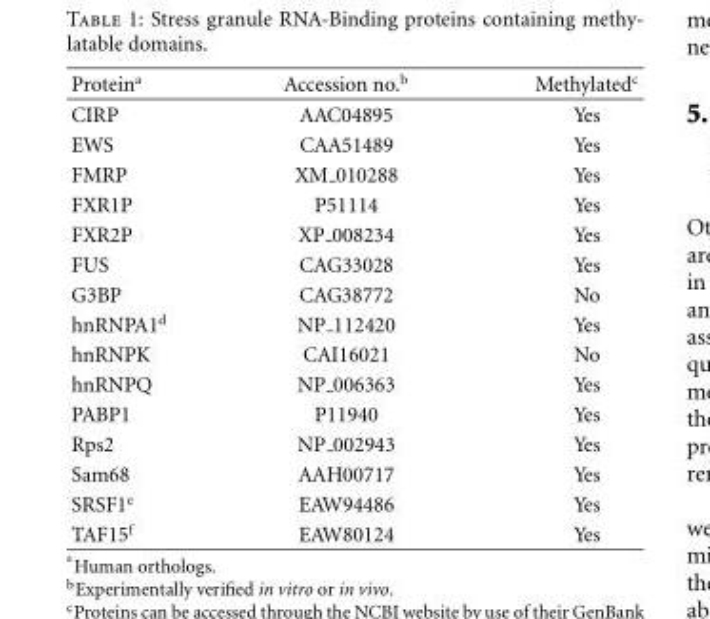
<table><thead><tr><td>Protein<sup>a</sup></td><td>Accession no.<sup>b</sup></td><td>Methylated<sup>c</sup></td></tr></thead><tbody><tr><td>CIRP</td><td>AAC04895</td><td>Yes</td></tr><tr><td>EWS</td><td>CAA51489</td><td>Yes</td></tr><tr><td>FMRP</td><td>XM 010288</td><td>Yes</td></tr><tr><td>FXR1P</td><td>P51114</td><td>Yes</td></tr><tr><td>FXR2P</td><td>XP 008234</td><td>Yes</td></tr><tr><td>FUS</td><td>CAG33028</td><td>Yes</td></tr><tr><td>G3BP</td><td>CAG38772</td><td>No</td></tr><tr><td>hnRNPA1<sup>d</sup></td><td>NP 112420</td><td>Yes</td></tr><tr><td>hnRNPK</td><td>CAI16021</td><td>No</td></tr><tr><td>hnRNPQ</td><td>NP 006363</td><td>Yes</td></tr><tr><td>PABP1</td><td>P11940</td><td>Yes</td></tr><tr><td>Rps2</td><td>NP 002943</td><td>Yes</td></tr><tr><td>Sam68</td><td>AAH00717</td><td>Yes</td></tr><tr><td>SRSF1<sup>e</sup></td><td>EAW94486</td><td>Yes</td></tr><tr><td>TAF15<sup>f</sup></td><td>EAW80124</td><td>Yes</td></tr></tbody></table>